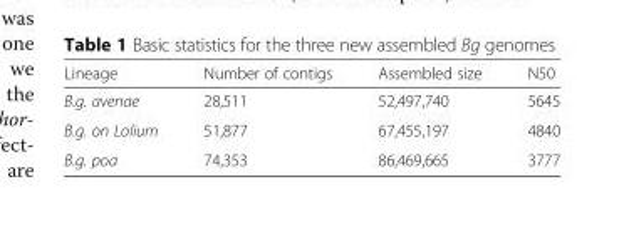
<table><thead><tr><td>Lineage</td><td>Number of contigs</td><td>Assembled size</td><td>N50</td></tr></thead><tbody><tr><td>B.g. avenae</td><td>28,511</td><td>52,497,740</td><td>5645</td></tr><tr><td>B.g. on Lolium</td><td>51,877</td><td>67,455,197</td><td>4840</td></tr><tr><td>B.g. poa</td><td>74,353</td><td>86,469,665</td><td>3777</td></tr></tbody></table>